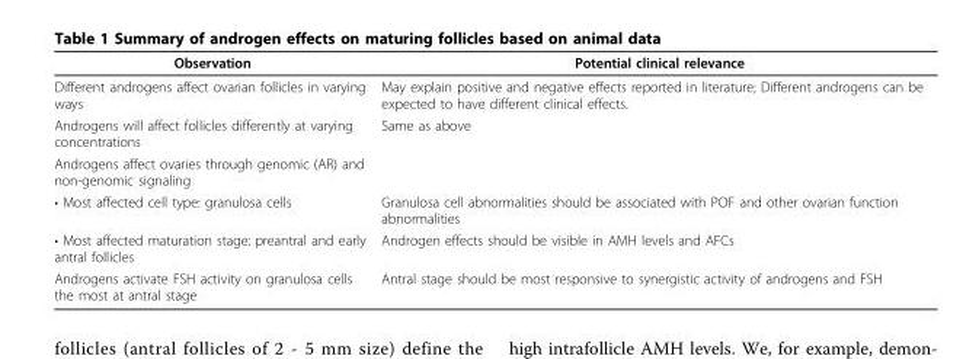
<table><thead><tr><td>Observation</td><td>Potential clinical relevance</td></tr></thead><tbody><tr><td>Different androgens affect ovarian follicles in varying ways</td><td>May explain positive and negative effects reported in literature; Different androgens can be expected to have different clinical effects.</td></tr><tr><td>Androgens will affect follicles differently at varying concentrations</td><td>Same as above</td></tr><tr><td colspan="2">Androgens affect ovaries through genomic (AR) and non-genomic signaling</td></tr><tr><td>• Most affected cell type: granulosa cells</td><td>Granulosa cell abnormalities should be associated with POF and other ovarian function abnormalities</td></tr><tr><td>• Most affected maturation stage: preantral and early antral follicles</td><td>Androgen effects should be visible in AMH levels and AFCs</td></tr><tr><td>Androgens activate FSH activity on granulosa cells the most at antral stage</td><td>Antral stage should be most responsive to synergistic activity of androgens and FSH</td></tr></tbody></table>